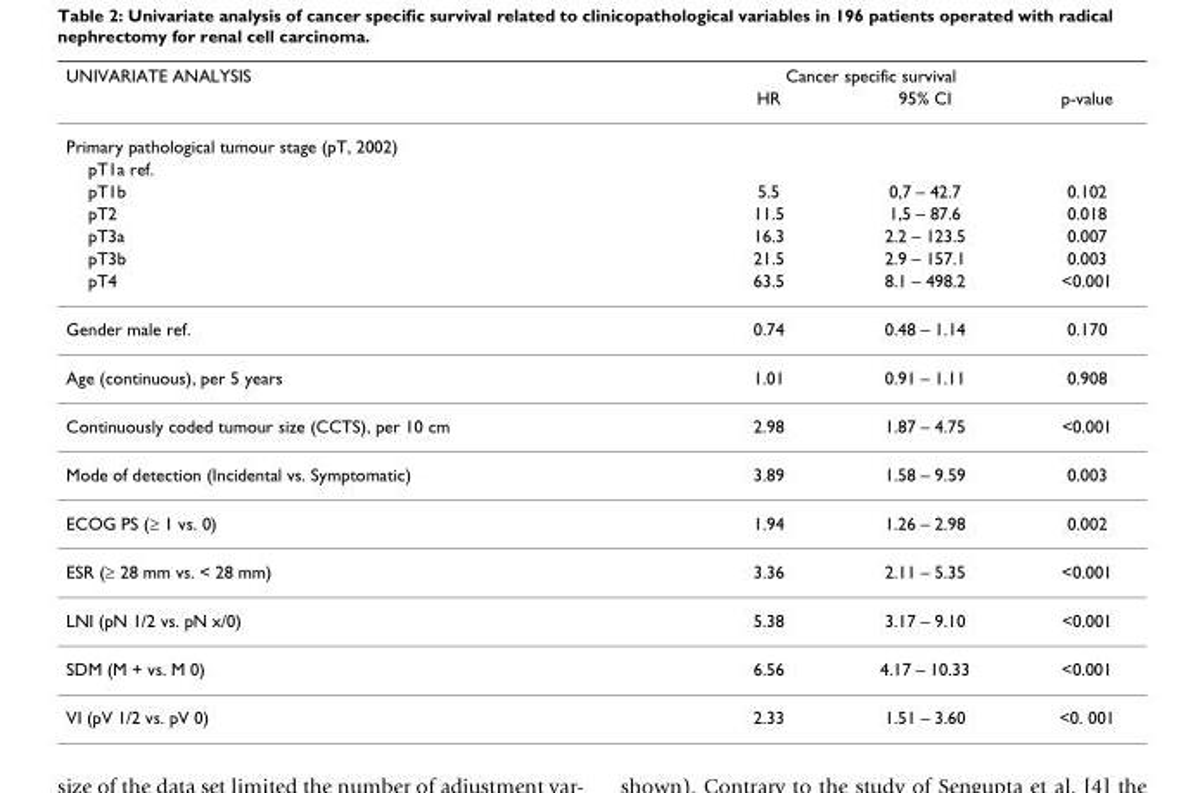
<table><thead><tr><td rowspan="2">UNIVARIATE ANALYSIS</td><td colspan="2">Cancer specific survival</td><td rowspan="2">p-value</td></tr><tr><td>HR</td><td>95% CI</td></tr></thead><tbody><tr><td colspan="4">Primary pathological tumour stage (pT, 2002)</td></tr><tr><td colspan="4">pT1a ref.</td></tr><tr><td>pT1b</td><td>5.5</td><td>0,7 – 42.7</td><td>0.102</td></tr><tr><td>pT2</td><td>11.5</td><td>1,5 – 87.6</td><td>0.018</td></tr><tr><td>pT3a</td><td>16.3</td><td>2.2 – 123.5</td><td>0.007</td></tr><tr><td>pT3b</td><td>21.5</td><td>2.9 – 157.1</td><td>0.003</td></tr><tr><td>pT4</td><td>63.5</td><td>8.1 – 498.2</td><td>&lt;0.001</td></tr><tr><td>Gender male ref.</td><td>0.74</td><td>0.48 – 1.14</td><td>0.170</td></tr><tr><td>Age (continuous), per 5 years</td><td>1.01</td><td>0.91 – 1.11</td><td>0.908</td></tr><tr><td>Continuously coded tumour size (CCTS), per 10 cm</td><td>2.98</td><td>1.87 – 4.75</td><td>&lt;0.001</td></tr><tr><td>Mode of detection (Incidental vs. Symptomatic)</td><td>3.89</td><td>1.58 – 9.59</td><td>0.003</td></tr><tr><td>ECOG PS (≥ 1 vs. 0)</td><td>1.94</td><td>1.26 – 2.98</td><td>0.002</td></tr><tr><td>ESR (≥ 28 mm vs. &lt; 28 mm)</td><td>3.36</td><td>2.11 – 5.35</td><td>&lt;0.001</td></tr><tr><td>LNI (pN 1/2 vs. pN x/0)</td><td>5.38</td><td>3.17 – 9.10</td><td>&lt;0.001</td></tr><tr><td>SDM (M + vs. M 0)</td><td>6.56</td><td>4.17 – 10.33</td><td>&lt;0.001</td></tr><tr><td>VI (pV 1/2 vs. pV 0)</td><td>2.33</td><td>1.51 – 3.60</td><td>&lt;0. 001</td></tr></tbody></table>